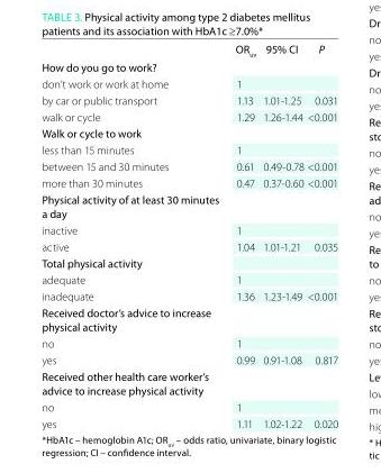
<table><thead><tr><td></td><td>oR<sub>uv</sub></td><td>95% ci</td><td>P</td></tr></thead><tbody><tr><td colspan="4">how do you go to work?</td></tr><tr><td>don’t work or work at home</td><td>1</td><td></td><td></td></tr><tr><td>by car or public transport</td><td>1.13</td><td>1.01-1.25</td><td>0.031</td></tr><tr><td>walk or cycle</td><td>1.29</td><td>1.26-1.44</td><td>&lt;0.001</td></tr><tr><td colspan="4">Walk or cycle to work</td></tr><tr><td>less than 15 minutes</td><td>1</td><td></td><td></td></tr><tr><td>between 15 and 30 minutes</td><td>0.61</td><td>0.49-0.78</td><td>&lt;0.001</td></tr><tr><td>more than 30 minutes</td><td>0.47</td><td>0.37-0.60</td><td>&lt;0.001</td></tr><tr><td colspan="4">Physical activity of at least 30 minutes a day</td></tr><tr><td>inactive</td><td>1</td><td></td><td></td></tr><tr><td>active</td><td>1.04</td><td>1.01-1.21</td><td>0.035</td></tr><tr><td colspan="4">total physical activity</td></tr><tr><td>adequate</td><td>1</td><td></td><td></td></tr><tr><td>inadequate</td><td>1.36</td><td>1.23-1.49</td><td>&lt;0.001</td></tr><tr><td colspan="4">Received doctor’s advice to increase physical activity</td></tr><tr><td>no</td><td>1</td><td></td><td></td></tr><tr><td>yes</td><td>0.99</td><td>0.91-1.08</td><td>0.817</td></tr><tr><td colspan="4">Received other health care worker’s advice to increase physical activity</td></tr><tr><td>no</td><td>1</td><td></td><td></td></tr><tr><td>yes</td><td>1.11</td><td>1.02-1.22</td><td>0.020</td></tr></tbody></table>